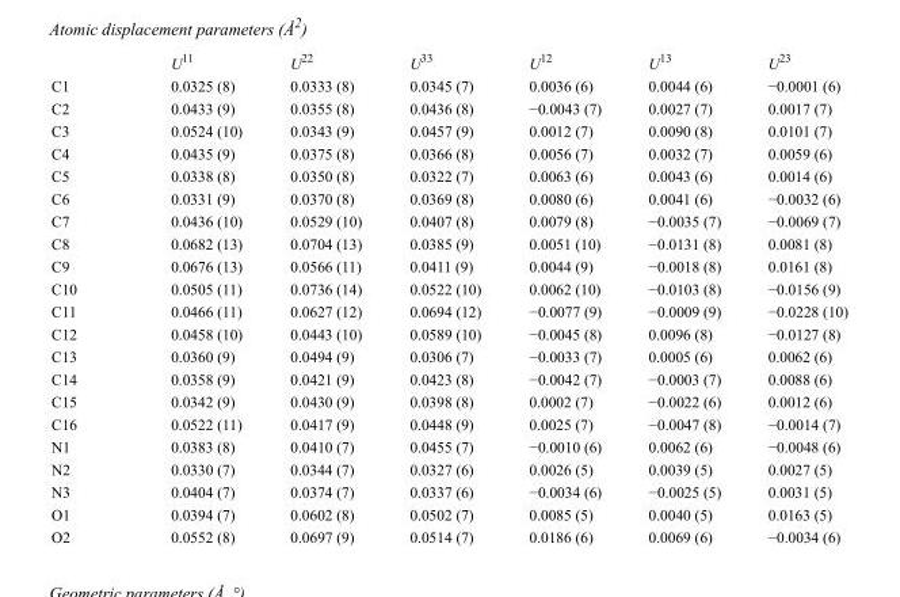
<table><thead><tr><td></td><td>U<sup>11</sup></td><td>U<sup>22</sup></td><td>U<sup>33</sup></td><td>U<sup>12</sup></td><td>U<sup>13</sup></td><td>U<sup>23</sup></td></tr></thead><tbody><tr><td>C1</td><td>0.0325 (8)</td><td>0.0333 (8)</td><td>0.0345 (7)</td><td>0.0036 (6)</td><td>0.0044 (6)</td><td>−0.0001 (6)</td></tr><tr><td>C2</td><td>0.0433 (9)</td><td>0.0355 (8)</td><td>0.0436 (8)</td><td>−0.0043 (7)</td><td>0.0027 (7)</td><td>0.0017 (7)</td></tr><tr><td>C3</td><td>0.0524 (10)</td><td>0.0343 (9)</td><td>0.0457 (9)</td><td>0.0012 (7)</td><td>0.0090 (8)</td><td>0.0101 (7)</td></tr><tr><td>C4</td><td>0.0435 (9)</td><td>0.0375 (8)</td><td>0.0366 (8)</td><td>0.0056 (7)</td><td>0.0032 (7)</td><td>0.0059 (6)</td></tr><tr><td>C5</td><td>0.0338 (8)</td><td>0.0350 (8)</td><td>0.0322 (7)</td><td>0.0063 (6)</td><td>0.0043 (6)</td><td>0.0014 (6)</td></tr><tr><td>C6</td><td>0.0331 (9)</td><td>0.0370 (8)</td><td>0.0369 (8)</td><td>0.0080 (6)</td><td>0.0041 (6)</td><td>−0.0032 (6)</td></tr><tr><td>C7</td><td>0.0436 (10)</td><td>0.0529 (10)</td><td>0.0407 (8)</td><td>0.0079 (8)</td><td>−0.0035 (7)</td><td>−0.0069 (7)</td></tr><tr><td>C8</td><td>0.0682 (13)</td><td>0.0704 (13)</td><td>0.0385 (9)</td><td>0.0051 (10)</td><td>−0.0131 (8)</td><td>0.0081 (8)</td></tr><tr><td>C9</td><td>0.0676 (13)</td><td>0.0566 (11)</td><td>0.0411 (9)</td><td>0.0044 (9)</td><td>−0.0018 (8)</td><td>0.0161 (8)</td></tr><tr><td>C10</td><td>0.0505 (11)</td><td>0.0736 (14)</td><td>0.0522 (10)</td><td>0.0062 (10)</td><td>−0.0103 (8)</td><td>−0.0156 (9)</td></tr><tr><td>C11</td><td>0.0466 (11)</td><td>0.0627 (12)</td><td>0.0694 (12)</td><td>−0.0077 (9)</td><td>−0.0009 (9)</td><td>−0.0228 (10)</td></tr><tr><td>C12</td><td>0.0458 (10)</td><td>0.0443 (10)</td><td>0.0589 (10)</td><td>−0.0045 (8)</td><td>0.0096 (8)</td><td>−0.0127 (8)</td></tr><tr><td>C13</td><td>0.0360 (9)</td><td>0.0494 (9)</td><td>0.0306 (7)</td><td>−0.0033 (7)</td><td>0.0005 (6)</td><td>0.0062 (6)</td></tr><tr><td>C14</td><td>0.0358 (9)</td><td>0.0421 (9)</td><td>0.0423 (8)</td><td>−0.0042 (7)</td><td>−0.0003 (7)</td><td>0.0088 (6)</td></tr><tr><td>C15</td><td>0.0342 (9)</td><td>0.0430 (9)</td><td>0.0398 (8)</td><td>0.0002 (7)</td><td>−0.0022 (6)</td><td>0.0012 (6)</td></tr><tr><td>C16</td><td>0.0522 (11)</td><td>0.0417 (9)</td><td>0.0448 (9)</td><td>0.0025 (7)</td><td>−0.0047 (8)</td><td>−0.0014 (7)</td></tr><tr><td>N1</td><td>0.0383 (8)</td><td>0.0410 (7)</td><td>0.0455 (7)</td><td>−0.0010 (6)</td><td>0.0062 (6)</td><td>−0.0048 (6)</td></tr><tr><td>N2</td><td>0.0330 (7)</td><td>0.0344 (7)</td><td>0.0327 (6)</td><td>0.0026 (5)</td><td>0.0039 (5)</td><td>0.0027 (5)</td></tr><tr><td>N3</td><td>0.0404 (7)</td><td>0.0374 (7)</td><td>0.0337 (6)</td><td>−0.0034 (6)</td><td>−0.0025 (5)</td><td>0.0031 (5)</td></tr><tr><td>O1</td><td>0.0394 (7)</td><td>0.0602 (8)</td><td>0.0502 (7)</td><td>0.0085 (5)</td><td>0.0040 (5)</td><td>0.0163 (5)</td></tr><tr><td>O2</td><td>0.0552 (8)</td><td>0.0697 (9)</td><td>0.0514 (7)</td><td>0.0186 (6)</td><td>0.0069 (6)</td><td>−0.0034 (6)</td></tr></tbody></table>